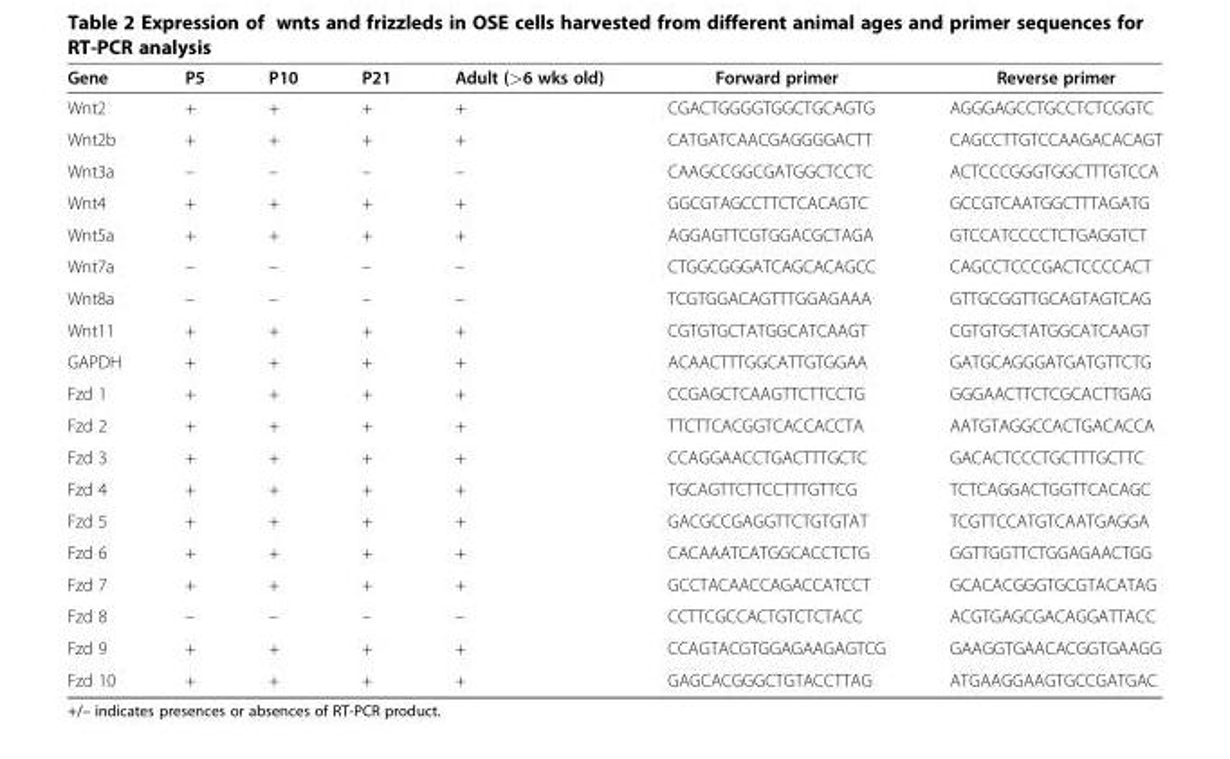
<table><thead><tr><td>Gene</td><td>P5</td><td>P10</td><td>P21</td><td>Adult (&gt;6 wks old)</td><td>Forward primer</td><td>Reverse primer</td></tr></thead><tbody><tr><td>Wnt2</td><td>+</td><td>+</td><td>+</td><td>+</td><td>CGACTGGGGTGGCTGCAGTG</td><td>AGGGAGCCTGCCTCTCGGTC</td></tr><tr><td>Wnt2b</td><td>+</td><td>+</td><td>+</td><td>+</td><td>CATGATCAACGAGGGGACTT</td><td>CAGCCTTGTCCAAGACACAGT</td></tr><tr><td>Wnt3a</td><td>–</td><td>–</td><td>–</td><td>–</td><td>CAAGCCGGCGATGGCTCCTC</td><td>ACTCCCGGGTGGCTTTGTCCA</td></tr><tr><td>Wnt4</td><td>+</td><td>+</td><td>+</td><td>+</td><td>GGCGTAGCCTTCTCACAGTC</td><td>GCCGTCAATGGCTTTAGATG</td></tr><tr><td>Wnt5a</td><td>+</td><td>+</td><td>+</td><td>+</td><td>AGGAGTTCGTGGACGCTAGA</td><td>GTCCATCCCCTCTGAGGTCT</td></tr><tr><td>Wnt7a</td><td>–</td><td>–</td><td>–</td><td>–</td><td>CTGGCGGGATCAGCACAGCC</td><td>CAGCCTCCCGACTCCCCACT</td></tr><tr><td>Wnt8a</td><td>–</td><td>–</td><td>–</td><td>–</td><td>TCGTGGACAGTTTGGAGAAA</td><td>GTTGCGGTTGCAGTAGTCAG</td></tr><tr><td>Wnt11</td><td>+</td><td>+</td><td>+</td><td>+</td><td>CGTGTGCTATGGCATCAAGT</td><td>CGTGTGCTATGGCATCAAGT</td></tr><tr><td>GAPDH</td><td>+</td><td>+</td><td>+</td><td>+</td><td>ACAACTTTGGCATTGTGGAA</td><td>GATGCAGGGATGATGTTCTG</td></tr><tr><td>Fzd 1</td><td>+</td><td>+</td><td>+</td><td>+</td><td>CCGAGCTCAAGTTCTTCCTG</td><td>GGGAACTTCTCGCACTTGAG</td></tr><tr><td>Fzd 2</td><td>+</td><td>+</td><td>+</td><td>+</td><td>TTCTTCACGGTCACCACCTA</td><td>AATGTAGGCCACTGACACCA</td></tr><tr><td>Fzd 3</td><td>+</td><td>+</td><td>+</td><td>+</td><td>CCAGGAACCTGACTTTGCTC</td><td>GACACTCCCTGCTTTGCTTC</td></tr><tr><td>Fzd 4</td><td>+</td><td>+</td><td>+</td><td>+</td><td>TGCAGTTCTTCCTTTGTTCG</td><td>TCTCAGGACTGGTTCACAGC</td></tr><tr><td>Fzd 5</td><td>+</td><td>+</td><td>+</td><td>+</td><td>GACGCCGAGGTTCTGTGTAT</td><td>TCGTTCCATGTCAATGAGGA</td></tr><tr><td>Fzd 6</td><td>+</td><td>+</td><td>+</td><td>+</td><td>CACAAATCATGGCACCTCTG</td><td>GGTTGGTTCTGGAGAACTGG</td></tr><tr><td>Fzd 7</td><td>+</td><td>+</td><td>+</td><td>+</td><td>GCCTACAACCAGACCATCCT</td><td>GCACACGGGTGCGTACATAG</td></tr><tr><td>Fzd 8</td><td>–</td><td>–</td><td>–</td><td>–</td><td>CCTTCGCCACTGTCTCTACC</td><td>ACGTGAGCGACAGGATTACC</td></tr><tr><td>Fzd 9</td><td>+</td><td>+</td><td>+</td><td>+</td><td>CCAGTACGTGGAGAAGAGTCG</td><td>GAAGGTGAACACGGTGAAGG</td></tr><tr><td>Fzd 10</td><td>+</td><td>+</td><td>+</td><td>+</td><td>GAGCACGGGCTGTACCTTAG</td><td>ATGAAGGAAGTGCCGATGAC</td></tr></tbody></table>